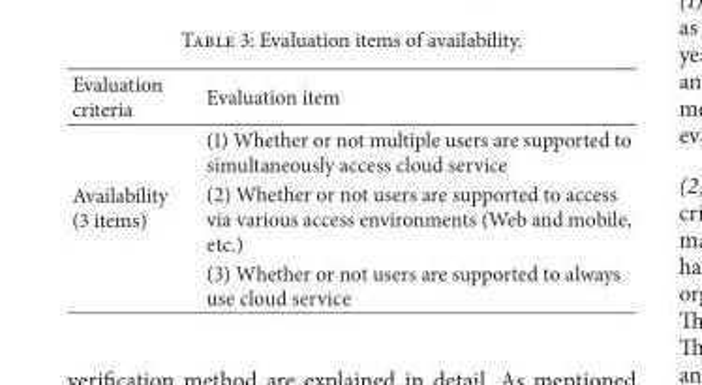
<table><thead><tr><td>Evaluation criteria</td><td>Evaluation item</td></tr></thead><tbody><tr><td rowspan="3">Availability (3 items)</td><td>(1) Whether or not multiple users are supported to simultaneously access cloud service</td></tr><tr><td>(2) Whether or not users are supported to access via various access environments (Web and mobile, etc.)</td></tr><tr><td>(3) Whether or not users are supported to always use cloud service</td></tr></tbody></table>